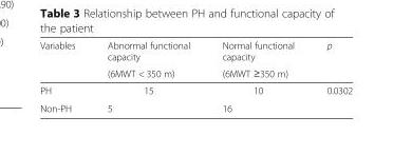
<table><thead><tr><td rowspan="2">Variables</td><td rowspan="2">Abnormal functional capacity (6MWT &lt; 350 m)</td><td rowspan="2">Normal functional capacity (6MWT ≥350 m)</td><td rowspan="2">p</td></tr><tr></tr></thead><tbody><tr><td>PH</td><td>15</td><td>10</td><td rowspan="2">0.0302</td></tr><tr><td>Non-PH</td><td>5</td><td>16</td></tr></tbody></table>